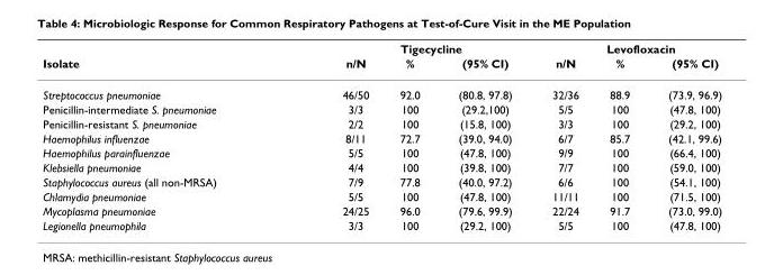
<table><thead><tr><td rowspan="2">Isolate</td><td colspan="3">Tigecycline</td><td colspan="3">Levofloxacin</td></tr><tr><td>n/N</td><td>%</td><td>(95% CI)</td><td>n/N</td><td>%</td><td>(95% CI)</td></tr></thead><tbody><tr><td>Streptococcus pneumoniae</td><td>46/50</td><td>92.0</td><td>(80.8, 97.8)</td><td>32/36</td><td>88.9</td><td>(73.9, 96.9)</td></tr><tr><td>Penicillin-intermediate S. pneumoniae</td><td>3/3</td><td>100</td><td>(29.2,100)</td><td>5/5</td><td>100</td><td>(47.8, 100)</td></tr><tr><td>Penicillin-resistant S. pneumoniae</td><td>2/2</td><td>100</td><td>(15.8, 100)</td><td>3/3</td><td>100</td><td>(29.2, 100)</td></tr><tr><td>Haemophilus influenzae</td><td>8/11</td><td>72.7</td><td>(39.0, 94.0)</td><td>6/7</td><td>85.7</td><td>(42.1, 99.6)</td></tr><tr><td>Haemophilus parainfluenzae</td><td>5/5</td><td>100</td><td>(47.8, 100)</td><td>9/9</td><td>100</td><td>(66.4, 100)</td></tr><tr><td>Klebsiella pneumoniae</td><td>4/4</td><td>100</td><td>(39.8, 100)</td><td>7/7</td><td>100</td><td>(59.0, 100)</td></tr><tr><td>Staphylococcus aureus (all non-MRSA)</td><td>7/9</td><td>77.8</td><td>(40.0, 97.2)</td><td>6/6</td><td>100</td><td>(54.1, 100)</td></tr><tr><td>Chlamydia pneumoniae</td><td>5/5</td><td>100</td><td>(47.8, 100)</td><td>11/11</td><td>100</td><td>(71.5, 100)</td></tr><tr><td>Mycoplasma pneumoniae</td><td>24/25</td><td>96.0</td><td>(79.6, 99.9)</td><td>22/24</td><td>91.7</td><td>(73.0, 99.0)</td></tr><tr><td>Legionella pneumophila</td><td>3/3</td><td>100</td><td>(29.2, 100)</td><td>5/5</td><td>100</td><td>(47.8, 100)</td></tr></tbody></table>